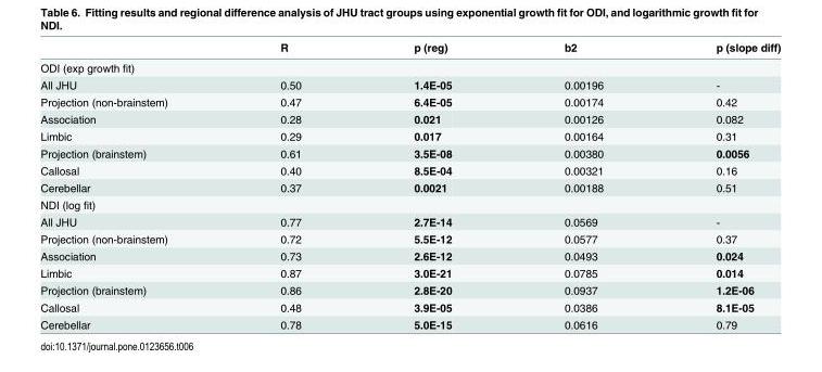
<table><thead><tr><td></td><td>R</td><td>p (reg)</td><td>b2</td><td>p (slope diff)</td></tr></thead><tbody><tr><td colspan="5">ODI (exp growth fit)</td></tr><tr><td>All JHU</td><td>0.50</td><td>1.4E-05</td><td>0.00196</td><td>-</td></tr><tr><td>Projection (non-brainstem)</td><td>0.47</td><td>6.4E-05</td><td>0.00174</td><td>0.42</td></tr><tr><td>Association</td><td>0.28</td><td>0.021</td><td>0.00126</td><td>0.082</td></tr><tr><td>Limbic</td><td>0.29</td><td>0.017</td><td>0.00164</td><td>0.31</td></tr><tr><td>Projection (brainstem)</td><td>0.61</td><td>3.5E-08</td><td>0.00380</td><td>0.0056</td></tr><tr><td>Callosal</td><td>0.40</td><td>8.5E-04</td><td>0.00321</td><td>0.16</td></tr><tr><td>Cerebellar</td><td>0.37</td><td>0.0021</td><td>0.00188</td><td>0.51</td></tr><tr><td colspan="5">NDI (log fit)</td></tr><tr><td>All JHU</td><td>0.77</td><td>2.7E-14</td><td>0.0569</td><td>-</td></tr><tr><td>Projection (non-brainstem)</td><td>0.72</td><td>5.5E-12</td><td>0.0577</td><td>0.37</td></tr><tr><td>Association</td><td>0.73</td><td>2.6E-12</td><td>0.0493</td><td>0.024</td></tr><tr><td>Limbic</td><td>0.87</td><td>3.0E-21</td><td>0.0785</td><td>0.014</td></tr><tr><td>Projection (brainstem)</td><td>0.86</td><td>2.8E-20</td><td>0.0937</td><td>1.2E-06</td></tr><tr><td>Callosal</td><td>0.48</td><td>3.9E-05</td><td>0.0386</td><td>8.1E-05</td></tr><tr><td>Cerebellar</td><td>0.78</td><td>5.0E-15</td><td>0.0616</td><td>0.79</td></tr></tbody></table>